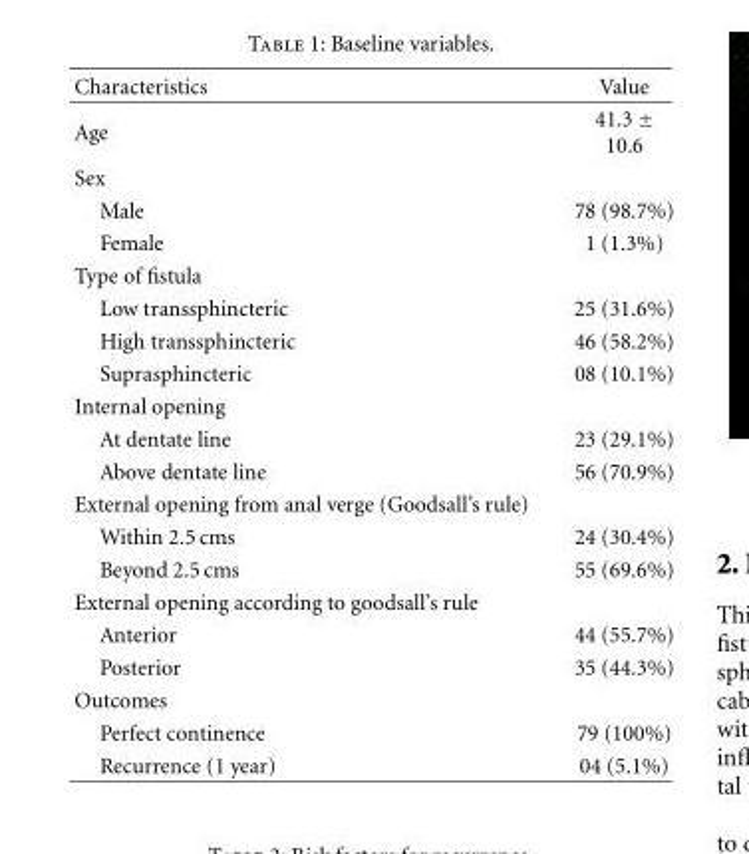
<table><thead><tr><td>Characteristics</td><td>Value</td></tr></thead><tbody><tr><td>Age</td><td>41.3 ± 10.6</td></tr><tr><td colspan="2">Sex</td></tr><tr><td>Male</td><td>78 (98.7%)</td></tr><tr><td>Female</td><td>1 (1.3%)</td></tr><tr><td colspan="2">Type of fistula</td></tr><tr><td>Low transsphincteric</td><td>25 (31.6%)</td></tr><tr><td>High transsphincteric</td><td>46 (58.2%)</td></tr><tr><td>Suprasphincteric</td><td>08 (10.1%)</td></tr><tr><td colspan="2">Internal opening</td></tr><tr><td>At dentate line</td><td>23 (29.1%)</td></tr><tr><td>Above dentate line</td><td>56 (70.9%)</td></tr><tr><td colspan="2">External opening from anal verge (Goodsall’s rule)</td></tr><tr><td>Within 2.5 cms</td><td>24 (30.4%)</td></tr><tr><td>Beyond 2.5 cms</td><td>55 (69.6%)</td></tr><tr><td colspan="2">External opening according to goodsall’s rule</td></tr><tr><td>Anterior</td><td>44 (55.7%)</td></tr><tr><td>Posterior</td><td>35 (44.3%)</td></tr><tr><td colspan="2">Outcomes</td></tr><tr><td>Perfect continence</td><td>79 (100%)</td></tr><tr><td>Recurrence (1 year)</td><td>04 (5.1%)</td></tr></tbody></table>